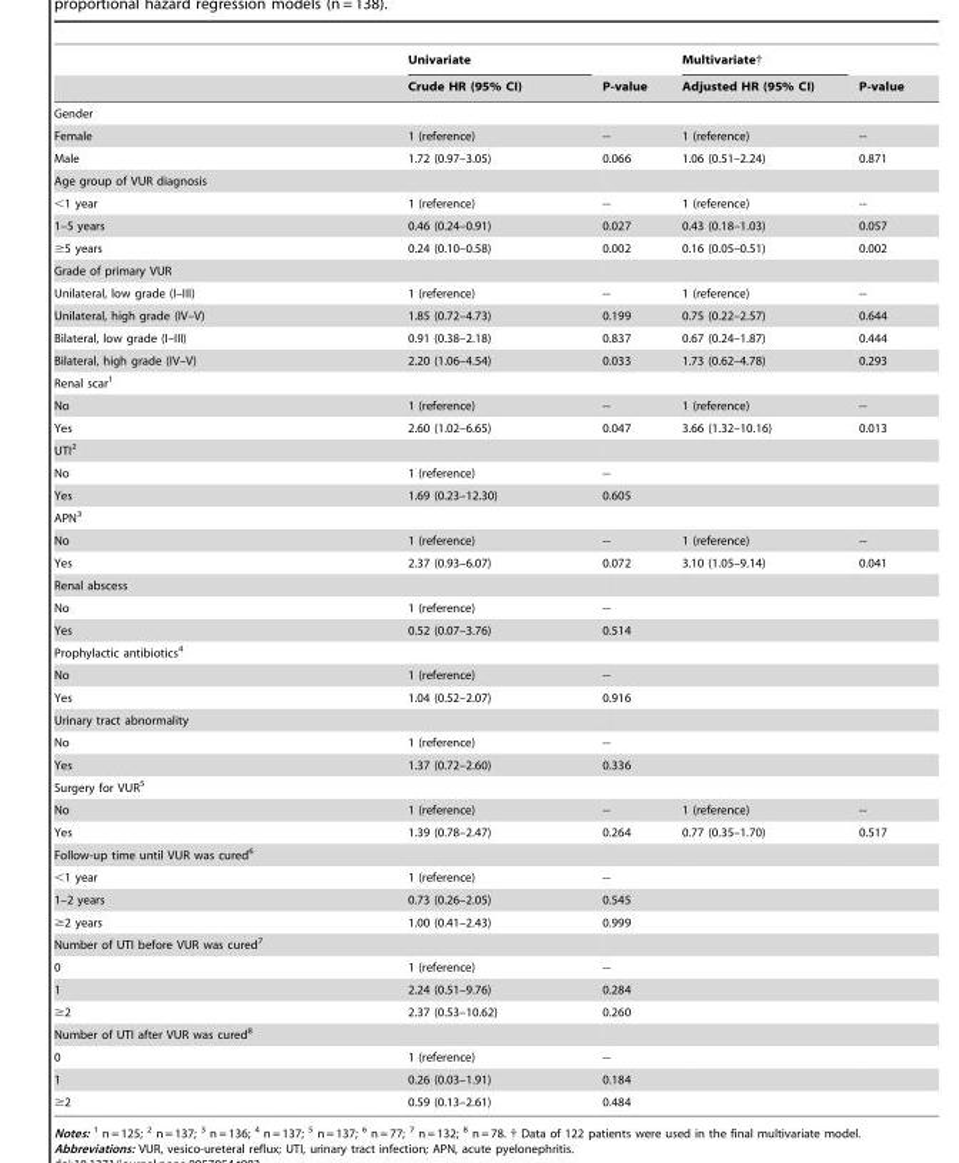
<table><thead><tr><td rowspan="2"></td><td rowspan="2">Univariate Crude HR (95% CI)</td><td rowspan="2">P-value</td><td rowspan="2">Multivariate† Adjusted HR (95% CI)</td><td rowspan="2">P-value</td></tr><tr></tr></thead><tbody><tr><td colspan="5">Gender</td></tr><tr><td>Female</td><td>1 (reference)</td><td>--</td><td>1 (reference)</td><td>--</td></tr><tr><td>Male</td><td>1.72 (0.97–3.05)</td><td>0.066</td><td>1.06 (0.51–2.24)</td><td>0.871</td></tr><tr><td colspan="5">Age group of VUR diagnosis</td></tr><tr><td>&lt;1 year</td><td>1 (reference)</td><td>--</td><td>1 (reference)</td><td>--</td></tr><tr><td>1–5 years</td><td>0.46 (0.24–0.91)</td><td>0.027</td><td>0.43 (0.18–1.03)</td><td>0.057</td></tr><tr><td>≥5 years</td><td>0.24 (0.10–0.58)</td><td>0.002</td><td>0.16 (0.05–0.51)</td><td>0.002</td></tr><tr><td colspan="5">Grade of primary VUR</td></tr><tr><td>Unilateral, low grade (I–III)</td><td>1 (reference)</td><td>--</td><td>1 (reference)</td><td>--</td></tr><tr><td>Unilateral, high grade (IV–V)</td><td>1.85 (0.72–4.73)</td><td>0.199</td><td>0.75 (0.22–2.57)</td><td>0.644</td></tr><tr><td>Bilateral, low grade (I–III)</td><td>0.91 (0.38–2.18)</td><td>0.837</td><td>0.67 (0.24–1.87)</td><td>0.444</td></tr><tr><td>Bilateral, high grade (IV–V)</td><td>2.20 (1.06–4.54)</td><td>0.033</td><td>1.73 (0.62–4.78)</td><td>0.293</td></tr><tr><td colspan="5">Renal scar<sup>1</sup></td></tr><tr><td>No</td><td>1 (reference)</td><td>--</td><td>1 (reference)</td><td>--</td></tr><tr><td>Yes</td><td>2.60 (1.02–6.65)</td><td>0.047</td><td>3.66 (1.32–10.16)</td><td>0.013</td></tr><tr><td colspan="5">UTI<sup>2</sup></td></tr><tr><td>No</td><td>1 (reference)</td><td>--</td><td></td><td></td></tr><tr><td>Yes</td><td>1.69 (0.23–12.30)</td><td>0.605</td><td></td><td></td></tr><tr><td colspan="5">APN<sup>3</sup></td></tr><tr><td>No</td><td>1 (reference)</td><td>--</td><td>1 (reference)</td><td>--</td></tr><tr><td>Yes</td><td>2.37 (0.93–6.07)</td><td>0.072</td><td>3.10 (1.05–9.14)</td><td>0.041</td></tr><tr><td colspan="5">Renal abscess</td></tr><tr><td>No</td><td>1 (reference)</td><td>--</td><td></td><td></td></tr><tr><td>Yes</td><td>0.52 (0.07–3.76)</td><td>0.514</td><td></td><td></td></tr><tr><td colspan="5">Prophylactic antibiotics<sup>4</sup></td></tr><tr><td>No</td><td>1 (reference)</td><td>--</td><td></td><td></td></tr><tr><td>Yes</td><td>1.04 (0.52–2.07)</td><td>0.916</td><td></td><td></td></tr><tr><td colspan="5">Urinary tract abnormality</td></tr><tr><td>No</td><td>1 (reference)</td><td>--</td><td></td><td></td></tr><tr><td>Yes</td><td>1.37 (0.72–2.60)</td><td>0.336</td><td></td><td></td></tr><tr><td colspan="5">Surgery for VUR<sup>5</sup></td></tr><tr><td>No</td><td>1 (reference)</td><td>--</td><td>1 (reference)</td><td>--</td></tr><tr><td>Yes</td><td>1.39 (0.78–2.47)</td><td>0.264</td><td>0.77 (0.35–1.70)</td><td>0.517</td></tr><tr><td colspan="5">Follow-up time until VUR was cured<sup>6</sup></td></tr><tr><td>&lt;1 year</td><td>1 (reference)</td><td>--</td><td></td><td></td></tr><tr><td>1–2 years</td><td>0.73 (0.26–2.05)</td><td>0.545</td><td></td><td></td></tr><tr><td>≥2 years</td><td>1.00 (0.41–2.43)</td><td>0.999</td><td></td><td></td></tr><tr><td colspan="5">Number of UTI before VUR was cured<sup>7</sup></td></tr><tr><td>0</td><td>1 (reference)</td><td>--</td><td></td><td></td></tr><tr><td>1</td><td>2.24 (0.51–9.76)</td><td>0.284</td><td></td><td></td></tr><tr><td>≥2</td><td>2.37 (0.53–10.62)</td><td>0.260</td><td></td><td></td></tr><tr><td colspan="5">Number of UTI after VUR was cured<sup>8</sup></td></tr><tr><td>0</td><td>1 (reference)</td><td>--</td><td></td><td></td></tr><tr><td>1</td><td>0.26 (0.03–1.91)</td><td>0.184</td><td></td><td></td></tr><tr><td>≥2</td><td>0.59 (0.13–2.61)</td><td>0.484</td><td></td><td></td></tr></tbody></table>